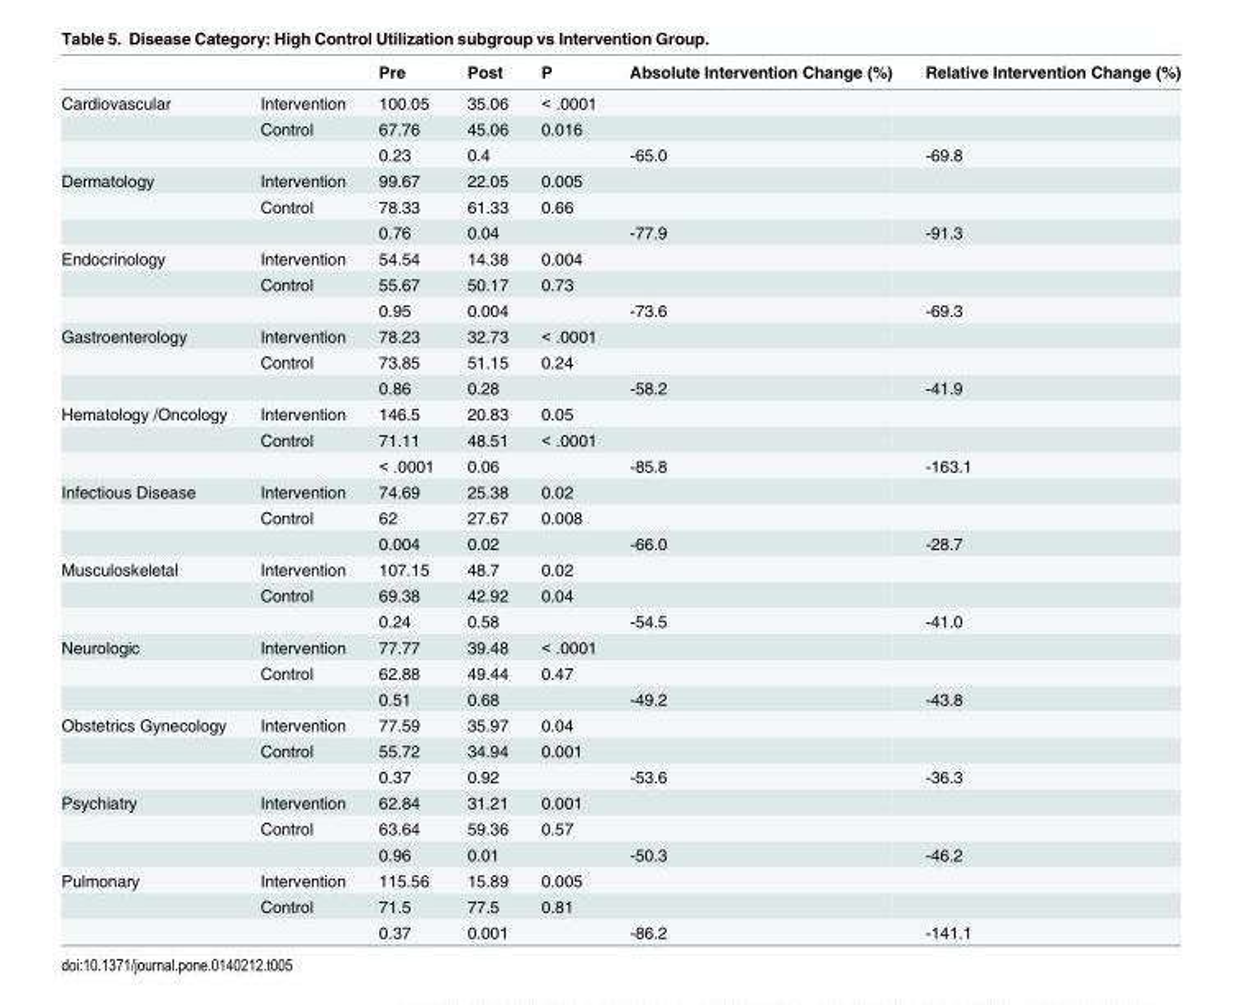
<table><thead><tr><td></td><td></td><td>Pre</td><td>Post</td><td>P</td><td>Absolute Intervention Change (%)</td><td>Relative Intervention Change (%)</td></tr></thead><tbody><tr><td rowspan="3">Cardiovascular</td><td>Intervention</td><td>100.05</td><td>35.06</td><td>&lt; .0001</td><td></td><td></td></tr><tr><td>Control</td><td>67.76</td><td>45.06</td><td>0.016</td><td></td><td></td></tr><tr><td></td><td>0.23</td><td>0.4</td><td></td><td>-65.0</td><td>-69.8</td></tr><tr><td rowspan="3">Dermatology</td><td>Intervention</td><td>99.67</td><td>22.05</td><td>0.005</td><td></td><td></td></tr><tr><td>Control</td><td>78.33</td><td>61.33</td><td>0.66</td><td></td><td></td></tr><tr><td></td><td>0.76</td><td>0.04</td><td></td><td>-77.9</td><td>-91.3</td></tr><tr><td rowspan="3">Endocrinology</td><td>Intervention</td><td>54.54</td><td>14.38</td><td>0.004</td><td></td><td></td></tr><tr><td>Control</td><td>55.67</td><td>50.17</td><td>0.73</td><td></td><td></td></tr><tr><td></td><td>0.95</td><td>0.004</td><td></td><td>-73.6</td><td>-69.3</td></tr><tr><td rowspan="3">Gastroenterology</td><td>Intervention</td><td>78.23</td><td>32.73</td><td>&lt; .0001</td><td></td><td></td></tr><tr><td>Control</td><td>73.85</td><td>51.15</td><td>0.24</td><td></td><td></td></tr><tr><td></td><td>0.86</td><td>0.28</td><td></td><td>-58.2</td><td>-41.9</td></tr><tr><td rowspan="3">Hematology /Oncology</td><td>Intervention</td><td>146.5</td><td>20.83</td><td>0.05</td><td></td><td></td></tr><tr><td>Control</td><td>71.11</td><td>48.51</td><td>&lt; .0001</td><td></td><td></td></tr><tr><td></td><td>&lt; .0001</td><td>0.06</td><td></td><td>-85.8</td><td>-163.1</td></tr><tr><td rowspan="3">Infectious Disease</td><td>Intervention</td><td>74.69</td><td>25.38</td><td>0.02</td><td></td><td></td></tr><tr><td>Control</td><td>62</td><td>27.67</td><td>0.008</td><td></td><td></td></tr><tr><td></td><td>0.004</td><td>0.02</td><td></td><td>-66.0</td><td>-28.7</td></tr><tr><td rowspan="3">Musculoskeletal</td><td>Intervention</td><td>107.15</td><td>48.7</td><td>0.02</td><td></td><td></td></tr><tr><td>Control</td><td>69.38</td><td>42.92</td><td>0.04</td><td></td><td></td></tr><tr><td></td><td>0.24</td><td>0.58</td><td></td><td>-54.5</td><td>-41.0</td></tr><tr><td rowspan="3">Neurologic</td><td>Intervention</td><td>77.77</td><td>39.48</td><td>&lt; .0001</td><td></td><td></td></tr><tr><td>Control</td><td>62.88</td><td>49.44</td><td>0.47</td><td></td><td></td></tr><tr><td></td><td>0.51</td><td>0.68</td><td></td><td>-49.2</td><td>-43.8</td></tr><tr><td rowspan="3">Obstetrics Gynecology</td><td>Intervention</td><td>77.59</td><td>35.97</td><td>0.04</td><td></td><td></td></tr><tr><td>Control</td><td>55.72</td><td>34.94</td><td>0.001</td><td></td><td></td></tr><tr><td></td><td>0.37</td><td>0.92</td><td></td><td>-53.6</td><td>-36.3</td></tr><tr><td rowspan="3">Psychiatry</td><td>Intervention</td><td>62.84</td><td>31.21</td><td>0.001</td><td></td><td></td></tr><tr><td>Control</td><td>63.64</td><td>59.36</td><td>0.57</td><td></td><td></td></tr><tr><td></td><td>0.96</td><td>0.01</td><td></td><td>-50.3</td><td>-46.2</td></tr><tr><td rowspan="3">Pulmonary</td><td>Intervention</td><td>115.56</td><td>15.89</td><td>0.005</td><td></td><td></td></tr><tr><td>Control</td><td>71.5</td><td>77.5</td><td>0.81</td><td></td><td></td></tr><tr><td></td><td>0.37</td><td>0.001</td><td></td><td>-86.2</td><td>-141.1</td></tr></tbody></table>